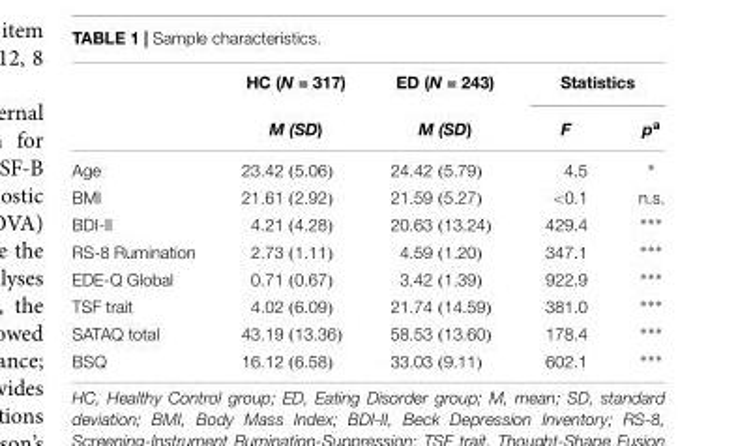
<table><thead><tr><td rowspan="2"></td><td rowspan="2">HC (N = 317) M (SD)</td><td rowspan="2">ED (N = 243) M (SD)</td><td colspan="2">Statistics</td></tr><tr><td>F</td><td>p<sup>a</sup></td></tr></thead><tbody><tr><td>Age</td><td>23.42 (5.06)</td><td>24.42 (5.79)</td><td>4.5</td><td>∗</td></tr><tr><td>BMI</td><td>21.61 (2.92)</td><td>21.59 (5.27)</td><td>&lt;0.1</td><td>n.s.</td></tr><tr><td>BDI-II</td><td>4.21 (4.28)</td><td>20.63 (13.24)</td><td>429.4</td><td>∗∗∗</td></tr><tr><td>RS-8 Rumination</td><td>2.73 (1.11)</td><td>4.59 (1.20)</td><td>347.1</td><td>∗∗∗</td></tr><tr><td>EDE-Q Global</td><td>0.71 (0.67)</td><td>3.42 (1.39)</td><td>922.9</td><td>∗∗∗</td></tr><tr><td>TSF trait</td><td>4.02 (6.09)</td><td>21.74 (14.59)</td><td>381.0</td><td>∗∗∗</td></tr><tr><td>SATAQ total</td><td>43.19 (13.36)</td><td>58.53 (13.60)</td><td>178.4</td><td>∗∗∗</td></tr><tr><td>BSQ</td><td>16.12 (6.58)</td><td>33.03 (9.11)</td><td>602.1</td><td>∗∗∗</td></tr></tbody></table>